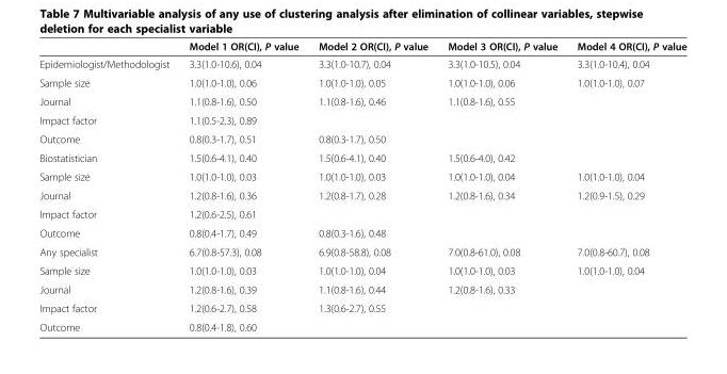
<table><thead><tr><td></td><td>Model 1 OR(CI), P value</td><td>Model 2 OR(CI), P value</td><td>Model 3 OR(CI), P value</td><td>Model 4 OR(CI), P value</td></tr></thead><tbody><tr><td>Epidemiologist/Methodologist</td><td>3.3(1.0-10.6), 0.04</td><td>3.3(1.0-10.7), 0.04</td><td>3.3(1.0-10.5), 0.04</td><td>3.3(1.0-10.4), 0.04</td></tr><tr><td>Sample size</td><td>1.0(1.0-1.0), 0.06</td><td>1.0(1.0-1.0), 0.05</td><td>1.0(1.0-1.0), 0.06</td><td>1.0(1.0-1.0), 0.07</td></tr><tr><td>Journal</td><td>1.1(0.8-1.6), 0.50</td><td>1.1(0.8-1.6), 0.46</td><td>1.1(0.8-1.6), 0.55</td><td></td></tr><tr><td>Impact factor</td><td>1.1(0.5-2.3), 0.89</td><td></td><td></td><td></td></tr><tr><td>Outcome</td><td>0.8(0.3-1.7), 0.51</td><td>0.8(0.3-1.7), 0.50</td><td></td><td></td></tr><tr><td>Biostatistician</td><td>1.5(0.6-4.1), 0.40</td><td>1.5(0.6-4.1), 0.40</td><td>1.5(0.6-4.0), 0.42</td><td></td></tr><tr><td>Sample size</td><td>1.0(1.0-1.0), 0.03</td><td>1.0(1.0-1.0), 0.03</td><td>1.0(1.0-1.0), 0.04</td><td>1.0(1.0-1.0), 0.04</td></tr><tr><td>Journal</td><td>1.2(0.8-1.6), 0.36</td><td>1.2(0.8-1.7), 0.28</td><td>1.2(0.8-1.6), 0.34</td><td>1.2(0.9-1.5), 0.29</td></tr><tr><td>Impact factor</td><td>1.2(0.6-2.5), 0.61</td><td></td><td></td><td></td></tr><tr><td>Outcome</td><td>0.8(0.4-1.7), 0.49</td><td>0.8(0.3-1.6), 0.48</td><td></td><td></td></tr><tr><td>Any specialist</td><td>6.7(0.8-57.3), 0.08</td><td>6.9(0.8-58.8), 0.08</td><td>7.0(0.8-61.0), 0.08</td><td>7.0(0.8-60.7), 0.08</td></tr><tr><td>Sample size</td><td>1.0(1.0-1.0), 0.03</td><td>1.0(1.0-1.0), 0.04</td><td>1.0(1.0-1.0), 0.03</td><td>1.0(1.0-1.0), 0.04</td></tr><tr><td>Journal</td><td>1.2(0.8-1.6), 0.39</td><td>1.1(0.8-1.6), 0.44</td><td>1.2(0.8-1.6), 0.33</td><td></td></tr><tr><td>Impact factor</td><td>1.2(0.6-2.7), 0.58</td><td>1.3(0.6-2.7), 0.55</td><td></td><td></td></tr><tr><td>Outcome</td><td>0.8(0.4-1.8), 0.60</td><td></td><td></td><td></td></tr></tbody></table>